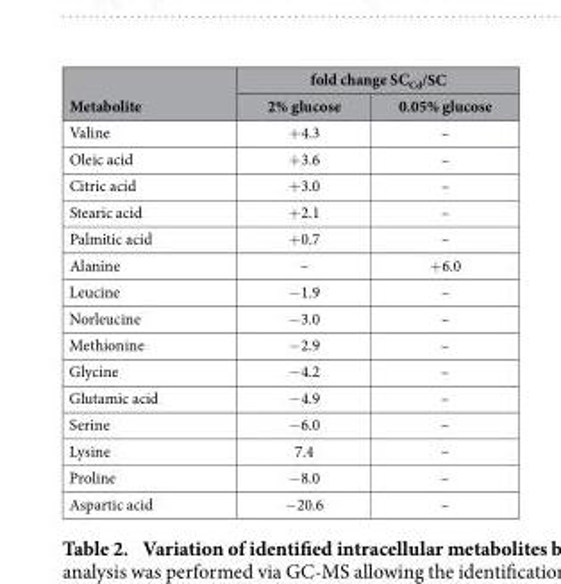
<table><thead><tr><td rowspan="2">Metabolite</td><td colspan="2">fold change SC<sub>Cd</sub>/SC</td></tr><tr><td>2% glucose</td><td>0.05% glucose</td></tr></thead><tbody><tr><td>Valine</td><td>+ 4.3</td><td>–</td></tr><tr><td>Oleic acid</td><td>+ 3.6</td><td>–</td></tr><tr><td>Citric acid</td><td>+ 3.0</td><td>–</td></tr><tr><td>Stearic acid</td><td>+ 2.1</td><td>–</td></tr><tr><td>Palmitic acid</td><td>+ 0.7</td><td>–</td></tr><tr><td>Alanine</td><td>–</td><td>+ 6.0</td></tr><tr><td>Leucine</td><td>− 1.9</td><td>–</td></tr><tr><td>Norleucine</td><td>− 3.0</td><td>–</td></tr><tr><td>Methionine</td><td>− 2.9</td><td>–</td></tr><tr><td>Glycine</td><td>− 4.2</td><td>–</td></tr><tr><td>Glutamic acid</td><td>− 4.9</td><td>–</td></tr><tr><td>Serine</td><td>− 6.0</td><td>–</td></tr><tr><td>Lysine</td><td>7.4</td><td>–</td></tr><tr><td>Proline</td><td>− 8.0</td><td>–</td></tr><tr><td>Aspartic acid</td><td>− 20.6</td><td>–</td></tr></tbody></table>